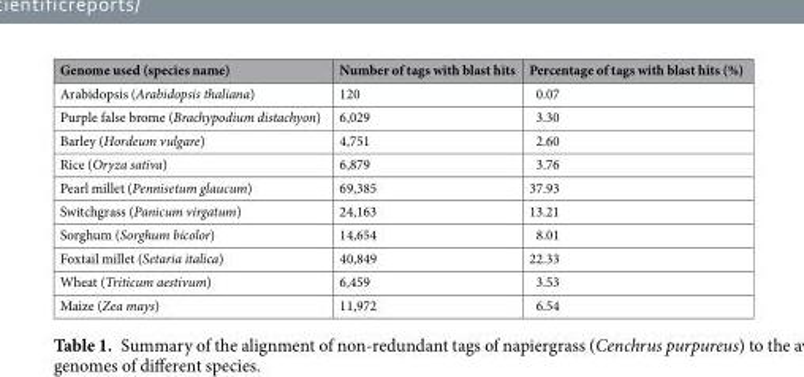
<table><thead><tr><td>Genome used (species name)</td><td>Number of tags with blast hits</td><td>Percentage of tags with blast hits (%)</td></tr></thead><tbody><tr><td>Arabidopsis (Arabidopsis thaliana)</td><td>120</td><td>0.07</td></tr><tr><td>Purple false brome (Brachypodium distachyon)</td><td>6,029</td><td>3.30</td></tr><tr><td>Barley (Hordeum vulgare)</td><td>4,751</td><td>2.60</td></tr><tr><td>Rice (Oryza sativa)</td><td>6,879</td><td>3.76</td></tr><tr><td>Pearl millet (Pennisetum glaucum)</td><td>69,385</td><td>37.93</td></tr><tr><td>Switchgrass (Panicum virgatum)</td><td>24,163</td><td>13.21</td></tr><tr><td>Sorghum (Sorghum bicolor)</td><td>14,654</td><td>8.01</td></tr><tr><td>Foxtail millet (Setaria italica)</td><td>40,849</td><td>22.33</td></tr><tr><td>Wheat (Triticum aestivum)</td><td>6,459</td><td>3.53</td></tr><tr><td>Maize (Zea mays)</td><td>11,972</td><td>6.54</td></tr></tbody></table>